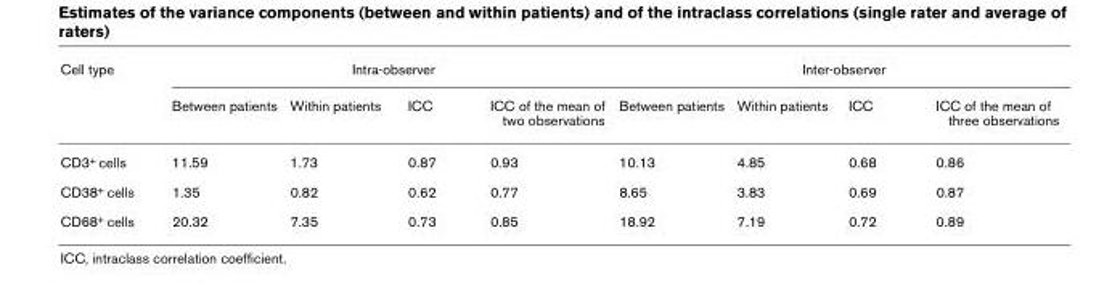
<table><thead><tr><td rowspan="2">Cell type</td><td colspan="4">Intra-observer</td><td colspan="4">Inter-observer</td></tr><tr><td>Between patients</td><td>Within patients</td><td>ICC</td><td>ICC of the mean of two observations</td><td>Between patients</td><td>Within patients</td><td>ICC</td><td>ICC of the mean of three observations</td></tr></thead><tbody><tr><td>CD3+ cells</td><td>11.59</td><td>1.73</td><td>0.87</td><td>0.93</td><td>10.13</td><td>4.85</td><td>0.68</td><td>0.86</td></tr><tr><td>CD38+ cells</td><td>1.35</td><td>0.82</td><td>0.62</td><td>0.77</td><td>8.65</td><td>3.83</td><td>0.69</td><td>0.87</td></tr><tr><td>CD68+ cells</td><td>20.32</td><td>7.35</td><td>0.73</td><td>0.85</td><td>18.92</td><td>7.19</td><td>0.72</td><td>0.89</td></tr></tbody></table>